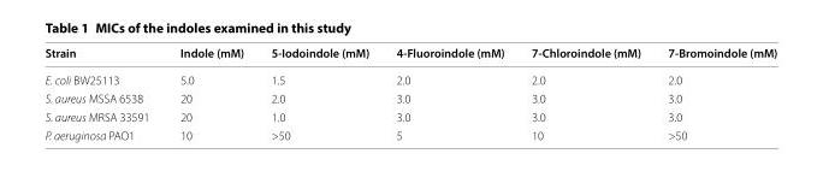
<table><thead><tr><td>Strain</td><td>Indole (mM)</td><td>5‑Iodoindole (mM)</td><td>4‑Fluoroindole (mM)</td><td>7‑Chloroindole (mM)</td><td>7‑Bromoindole (mM)</td></tr></thead><tbody><tr><td>E. coli BW25113</td><td>5.0</td><td>1.5</td><td>2.0</td><td>2.0</td><td>2.0</td></tr><tr><td>S. aureus MSSA 6538</td><td>20</td><td>2.0</td><td>3.0</td><td>3.0</td><td>3.0</td></tr><tr><td>S. aureus MRSA 33591</td><td>20</td><td>1.0</td><td>3.0</td><td>3.0</td><td>3.0</td></tr><tr><td>P. aeruginosa PAO1</td><td>10</td><td>&gt;50</td><td>5</td><td>10</td><td>&gt;50</td></tr></tbody></table>